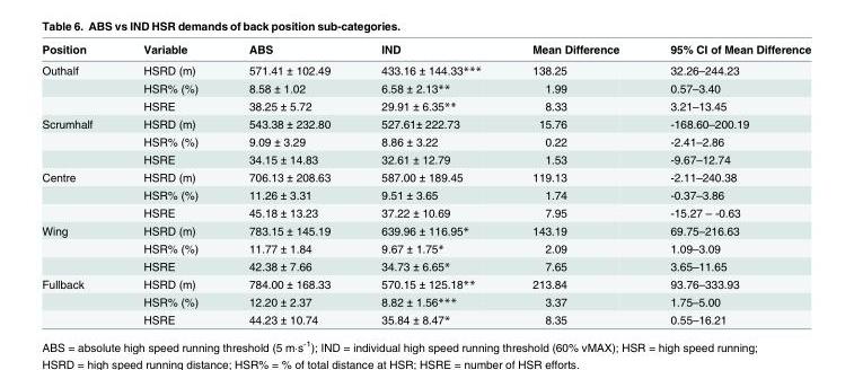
<table><thead><tr><td>Position</td><td>Variable</td><td>ABS</td><td>IND</td><td>Mean Difference</td><td>95% CI of Mean Difference</td></tr></thead><tbody><tr><td rowspan="3">Outhalf</td><td>HSRD (m)</td><td>571.41 ± 102.49</td><td>433.16 ± 144.33***</td><td>138.25</td><td>32.26–244.23</td></tr><tr><td>HSR% (%)</td><td>8.58 ± 1.02</td><td>6.58 ± 2.13**</td><td>1.99</td><td>0.57–3.40</td></tr><tr><td>HSRE</td><td>38.25 ± 5.72</td><td>29.91 ± 6.35**</td><td>8.33</td><td>3.21–13.45</td></tr><tr><td rowspan="3">Scrumhalf</td><td>HSRD (m)</td><td>543.38 ± 232.80</td><td>527.61± 222.73</td><td>15.76</td><td>-168.60–200.19</td></tr><tr><td>HSR% (%)</td><td>9.09 ± 3.29</td><td>8.86 ± 3.22</td><td>0.22</td><td>-2.41–2.86</td></tr><tr><td>HSRE</td><td>34.15 ± 14.83</td><td>32.61 ± 12.79</td><td>1.53</td><td>-9.67–12.74</td></tr><tr><td rowspan="3">Centre</td><td>HSRD (m)</td><td>706.13 ± 208.63</td><td>587.00 ± 189.45</td><td>119.13</td><td>-2.11–240.38</td></tr><tr><td>HSR% (%)</td><td>11.26 ± 3.31</td><td>9.51 ± 3.65</td><td>1.74</td><td>-0.37–3.86</td></tr><tr><td>HSRE</td><td>45.18 ± 13.23</td><td>37.22 ± 10.69</td><td>7.95</td><td>-15.27 – -0.63</td></tr><tr><td rowspan="3">Wing</td><td>HSRD (m)</td><td>783.15 ± 145.19</td><td>639.96 ± 116.95*</td><td>143.19</td><td>69.75–216.63</td></tr><tr><td>HSR% (%)</td><td>11.77 ± 1.84</td><td>9.67 ± 1.75*</td><td>2.09</td><td>1.09–3.09</td></tr><tr><td>HSRE</td><td>42.38 ± 7.66</td><td>34.73 ± 6.65*</td><td>7.65</td><td>3.65–11.65</td></tr><tr><td rowspan="3">Fullback</td><td>HSRD (m)</td><td>784.00 ± 168.33</td><td>570.15 ± 125.18**</td><td>213.84</td><td>93.76–333.93</td></tr><tr><td>HSR% (%)</td><td>12.20 ± 2.37</td><td>8.82 ± 1.56***</td><td>3.37</td><td>1.75–5.00</td></tr><tr><td>HSRE</td><td>44.23 ± 10.74</td><td>35.84 ± 8.47*</td><td>8.35</td><td>0.55–16.21</td></tr></tbody></table>